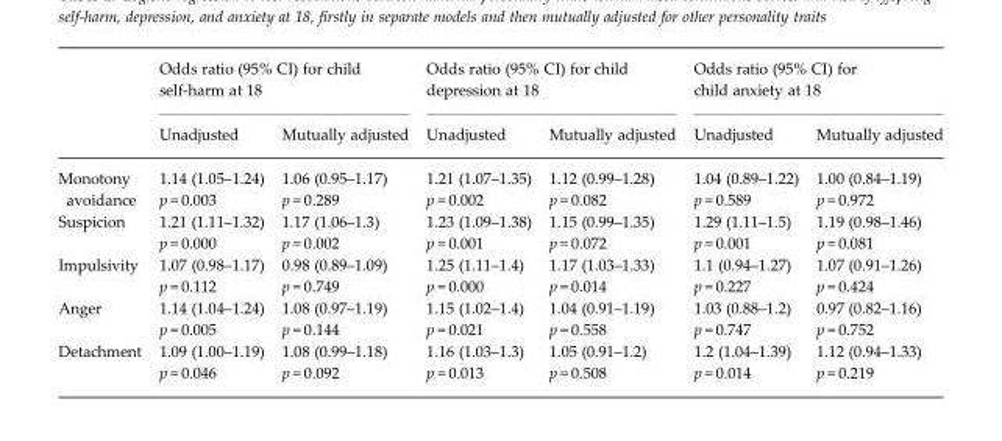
<table><thead><tr><td rowspan="2"></td><td colspan="2">Odds ratio (95% CI) for child self-harm at 18</td><td colspan="2">Odds ratio (95% CI) for child depression at 18</td><td colspan="2">Odds ratio (95% CI) for child anxiety at 18</td></tr><tr><td>Unadjusted</td><td>Mutually adjusted</td><td>Unadjusted</td><td>Mutually adjusted</td><td>Unadjusted</td><td>Mutually adjusted</td></tr></thead><tbody><tr><td>Monotony avoidance</td><td>1.14 (1.05–1.24) p = 0.003</td><td>1.06 (0.95–1.17) p = 0.289</td><td>1.21 (1.07–1.35) p = 0.002</td><td>1.12 (0.99–1.28) p = 0.082</td><td>1.04 (0.89–1.22) p = 0.589</td><td>1.00 (0.84–1.19) p = 0.972</td></tr><tr><td>Suspicion</td><td>1.21 (1.11–1.32) p = 0.000</td><td>1.17 (1.06–1.3) p = 0.002</td><td>1.23 (1.09–1.38) p = 0.001</td><td>1.15 (0.99–1.35) p = 0.072</td><td>1.29 (1.11–1.5) p = 0.001</td><td>1.19 (0.98–1.46) p = 0.081</td></tr><tr><td>Impulsivity</td><td>1.07 (0.98–1.17) p = 0.112</td><td>0.98 (0.89–1.09) p = 0.749</td><td>1.25 (1.11–1.4) p = 0.000</td><td>1.17 (1.03–1.33) p = 0.014</td><td>1.1 (0.94–1.27) p = 0.227</td><td>1.07 (0.91–1.26) p = 0.424</td></tr><tr><td>Anger</td><td>1.14 (1.04–1.24) p = 0.005</td><td>1.08 (0.97–1.19) p = 0.144</td><td>1.15 (1.02–1.4) p = 0.021</td><td>1.04 (0.91–1.19) p = 0.558</td><td>1.03 (0.88–1.2) p = 0.747</td><td>0.97 (0.82–1.16) p = 0.752</td></tr><tr><td>Detachment</td><td>1.09 (1.00–1.19) p = 0.046</td><td>1.08 (0.99–1.18) p = 0.092</td><td>1.16 (1.03–1.3) p = 0.013</td><td>1.05 (0.91–1.2) p = 0.508</td><td>1.2 (1.04–1.39) p = 0.014</td><td>1.12 (0.94–1.33) p = 0.219</td></tr></tbody></table>